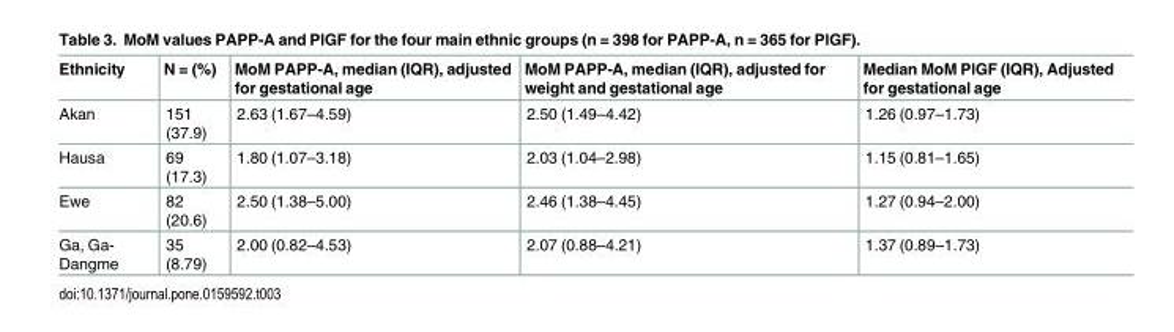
<table><thead><tr><td>Ethnicity</td><td>N = (%)</td><td>MoM PAPP-A, median (IQR), adjusted for gestational age</td><td>MoM PAPP-A, median (IQR), adjusted for weight and gestational age</td><td>Median MoM PlGF (IQR), Adjusted for gestational age</td></tr></thead><tbody><tr><td>Akan</td><td>151 (37.9)</td><td>2.63 (1.67–4.59)</td><td>2.50 (1.49–4.42)</td><td>1.26 (0.97–1.73)</td></tr><tr><td>Hausa</td><td>69 (17.3)</td><td>1.80 (1.07–3.18)</td><td>2.03 (1.04–2.98)</td><td>1.15 (0.81–1.65)</td></tr><tr><td>Ewe</td><td>82 (20.6)</td><td>2.50 (1.38–5.00)</td><td>2.46 (1.38–4.45)</td><td>1.27 (0.94–2.00)</td></tr><tr><td>Ga, Ga- Dangme</td><td>35 (8.79)</td><td>2.00 (0.82–4.53)</td><td>2.07 (0.88–4.21)</td><td>1.37 (0.89–1.73)</td></tr></tbody></table>